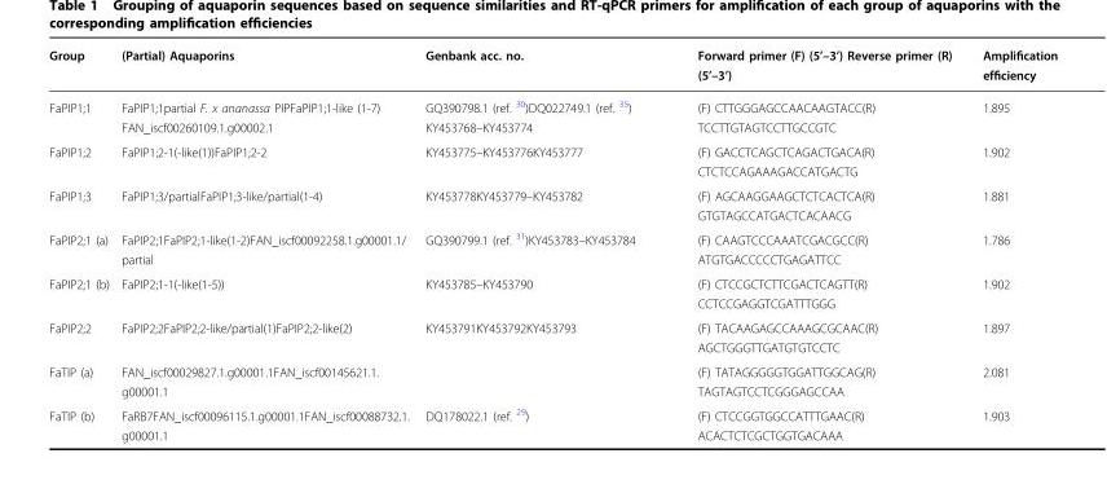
<table><thead><tr><td>Group</td><td>(Partial) Aquaporins</td><td>Genbank acc. no.</td><td>Forward primer (F) (5’–3’) Reverse primer (R) (5’–3’)</td><td>Amplification efficiency</td></tr></thead><tbody><tr><td>FaPIP1;1</td><td>FaPIP1;1partial F. x ananassa PIPFaPIP1;1-like (1-7) FAN_iscf00260109.1.g00002.1</td><td>GQ390798.1 (ref. <sup>30</sup>)DQ022749.1 (ref. <sup>35</sup>) KY453768–KY453774</td><td>(F) CTTGGGAGCCAACAAGTACC(R) TCCTTGTAGTCCTTGCCGTC</td><td>1.895</td></tr><tr><td>FaPIP1;2</td><td>FaPIP1;2-1(-like(1))FaPIP1;2-2</td><td>KY453775–KY453776KY453777</td><td>(F) GACCTCAGCTCAGACTGACA(R) CTCTCCAGAAAGACCATGACTG</td><td>1.902</td></tr><tr><td>FaPIP1;3</td><td>FaPIP1;3/partialFaPIP1;3-like/partial(1-4)</td><td>KY453778KY453779–KY453782</td><td>(F) AGCAAGGAAGCTCTCACTCA(R) GTGTAGCCATGACTCACAACG</td><td>1.881</td></tr><tr><td>FaPIP2;1 (a)</td><td>FaPIP2;1FaPIP2;1-like(1-2)FAN_iscf00092258.1.g00001.1/ partial</td><td>GQ390799.1 (ref. <sup>31</sup>)KY453783–KY453784</td><td>(F) CAAGTCCCAAATCGACGCC(R) ATGTGACCCCCTGAGATTCC</td><td>1.786</td></tr><tr><td>FaPIP2;1 (b)</td><td>FaPIP2;1-1(-like(1-5))</td><td>KY453785–KY453790</td><td>(F) CTCCGCTCTTCGACTCAGTT(R) CCTCCGAGGTCGATTTGGG</td><td>1.902</td></tr><tr><td>FaPIP2;2</td><td>FaPIP2;2FaPIP2;2-like/partial(1)FaPIP2;2-like(2)</td><td>KY453791KY453792KY453793</td><td>(F) TACAAGAGCCAAAGCGCAAC(R) AGCTGGGTTGATGTGTCCTC</td><td>1.897</td></tr><tr><td>FaTIP (a)</td><td>FAN_iscf00029827.1.g00001.1FAN_iscf00145621.1. g00001.1</td><td></td><td>(F) TATAGGGGGTGGATTGGCAG(R) TAGTAGTCCTCGGGAGCCAA</td><td>2.081</td></tr><tr><td>FaTIP (b)</td><td>FaRB7FAN_iscf00096115.1.g00001.1FAN_iscf00088732.1. g00001.1</td><td>DQ178022.1 (ref. <sup>29</sup>)</td><td>(F) CTCCGGTGGCCATTTGAAC(R) ACACTCTCGCTGGTGACAAA</td><td>1.903</td></tr></tbody></table>